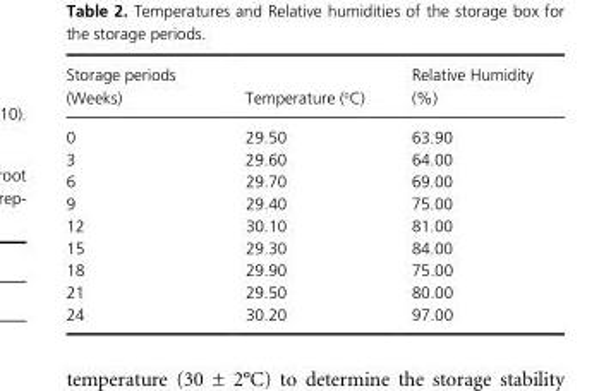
<table><thead><tr><td>Storage periods (Weeks)</td><td>Temperature (<sup>o</sup>C)</td><td>Relative Humidity (%)</td></tr></thead><tbody><tr><td>0</td><td>29.50</td><td>63.90</td></tr><tr><td>3</td><td>29.60</td><td>64.00</td></tr><tr><td>6</td><td>29.70</td><td>69.00</td></tr><tr><td>9</td><td>29.40</td><td>75.00</td></tr><tr><td>12</td><td>30.10</td><td>81.00</td></tr><tr><td>15</td><td>29.30</td><td>84.00</td></tr><tr><td>18</td><td>29.90</td><td>75.00</td></tr><tr><td>21</td><td>29.50</td><td>80.00</td></tr><tr><td>24</td><td>30.20</td><td>97.00</td></tr></tbody></table>